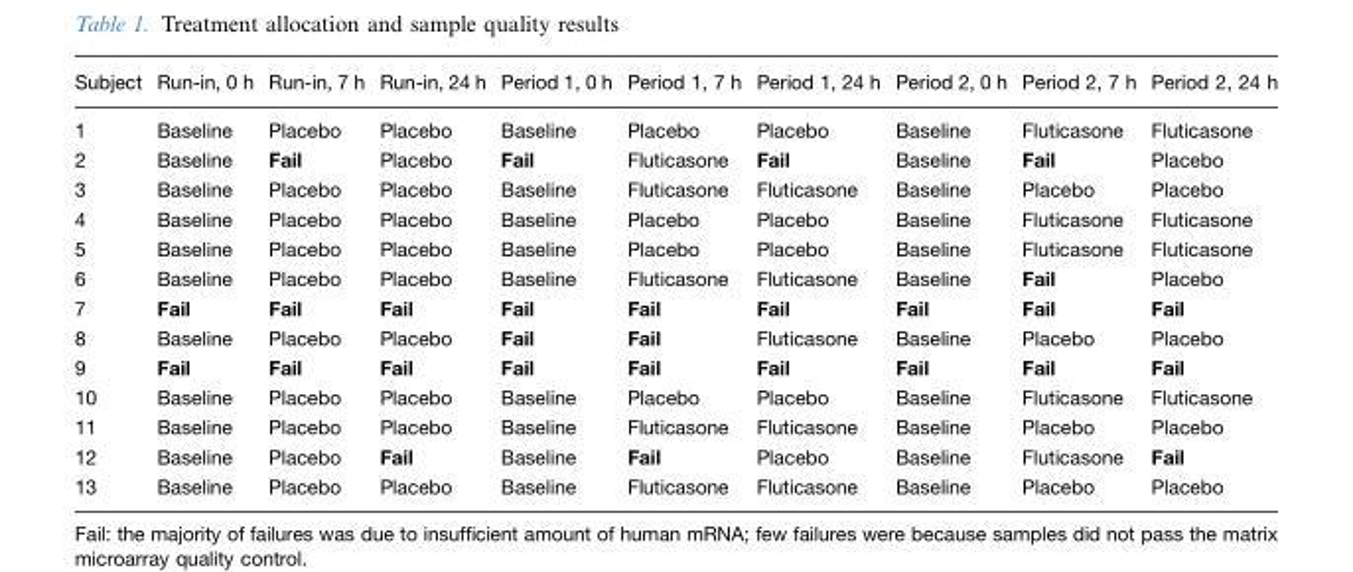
<table><thead><tr><td>Subject</td><td>Run-in, 0 h</td><td>Run-in, 7 h</td><td>Run-in, 24 h</td><td>Period 1, 0 h</td><td>Period 1, 7 h</td><td>Period 1, 24 h</td><td>Period 2, 0 h</td><td>Period 2, 7 h</td><td>Period 2, 24 h</td></tr></thead><tbody><tr><td>1</td><td>Baseline</td><td>Placebo</td><td>Placebo</td><td>Baseline</td><td>Placebo</td><td>Placebo</td><td>Baseline</td><td>Fluticasone</td><td>Fluticasone</td></tr><tr><td>2</td><td>Baseline</td><td>Fail</td><td>Placebo</td><td>Fail</td><td>Fluticasone</td><td>Fail</td><td>Baseline</td><td>Fail</td><td>Placebo</td></tr><tr><td>3</td><td>Baseline</td><td>Placebo</td><td>Placebo</td><td>Baseline</td><td>Fluticasone</td><td>Fluticasone</td><td>Baseline</td><td>Placebo</td><td>Placebo</td></tr><tr><td>4</td><td>Baseline</td><td>Placebo</td><td>Placebo</td><td>Baseline</td><td>Placebo</td><td>Placebo</td><td>Baseline</td><td>Fluticasone</td><td>Fluticasone</td></tr><tr><td>5</td><td>Baseline</td><td>Placebo</td><td>Placebo</td><td>Baseline</td><td>Placebo</td><td>Placebo</td><td>Baseline</td><td>Fluticasone</td><td>Fluticasone</td></tr><tr><td>6</td><td>Baseline</td><td>Placebo</td><td>Placebo</td><td>Baseline</td><td>Fluticasone</td><td>Fluticasone</td><td>Baseline</td><td>Fail</td><td>Placebo</td></tr><tr><td>7</td><td>Fail</td><td>Fail</td><td>Fail</td><td>Fail</td><td>Fail</td><td>Fail</td><td>Fail</td><td>Fail</td><td>Fail</td></tr><tr><td>8</td><td>Baseline</td><td>Placebo</td><td>Placebo</td><td>Fail</td><td>Fail</td><td>Fluticasone</td><td>Baseline</td><td>Placebo</td><td>Placebo</td></tr><tr><td>9</td><td>Fail</td><td>Fail</td><td>Fail</td><td>Fail</td><td>Fail</td><td>Fail</td><td>Fail</td><td>Fail</td><td>Fail</td></tr><tr><td>10</td><td>Baseline</td><td>Placebo</td><td>Placebo</td><td>Baseline</td><td>Placebo</td><td>Placebo</td><td>Baseline</td><td>Fluticasone</td><td>Fluticasone</td></tr><tr><td>11</td><td>Baseline</td><td>Placebo</td><td>Placebo</td><td>Baseline</td><td>Fluticasone</td><td>Fluticasone</td><td>Baseline</td><td>Placebo</td><td>Placebo</td></tr><tr><td>12</td><td>Baseline</td><td>Placebo</td><td>Fail</td><td>Baseline</td><td>Fail</td><td>Placebo</td><td>Baseline</td><td>Fluticasone</td><td>Fail</td></tr><tr><td>13</td><td>Baseline</td><td>Placebo</td><td>Placebo</td><td>Baseline</td><td>Fluticasone</td><td>Fluticasone</td><td>Baseline</td><td>Placebo</td><td>Placebo</td></tr></tbody></table>